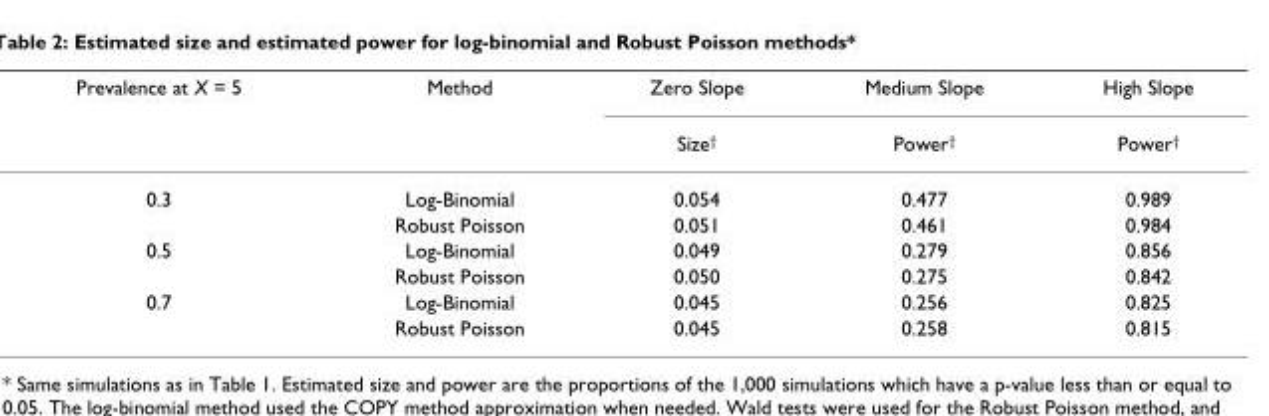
<table><thead><tr><td rowspan="2">Prevalence at X = 5</td><td rowspan="2">Method</td><td rowspan="2">Zero Slope Size<sup>†</sup></td><td rowspan="2">Medium Slope Power<sup>†</sup></td><td rowspan="2">High Slope Power<sup>†</sup></td></tr><tr></tr></thead><tbody><tr><td rowspan="2">0.3</td><td>Log-Binomial</td><td>0.054</td><td>0.477</td><td>0.989</td></tr><tr><td>Robust Poisson</td><td>0.051</td><td>0.461</td><td>0.984</td></tr><tr><td rowspan="2">0.5</td><td>Log-Binomial</td><td>0.049</td><td>0.279</td><td>0.856</td></tr><tr><td>Robust Poisson</td><td>0.050</td><td>0.275</td><td>0.842</td></tr><tr><td rowspan="2">0.7</td><td>Log-Binomial</td><td>0.045</td><td>0.256</td><td>0.825</td></tr><tr><td>Robust Poisson</td><td>0.045</td><td>0.258</td><td>0.815</td></tr></tbody></table>